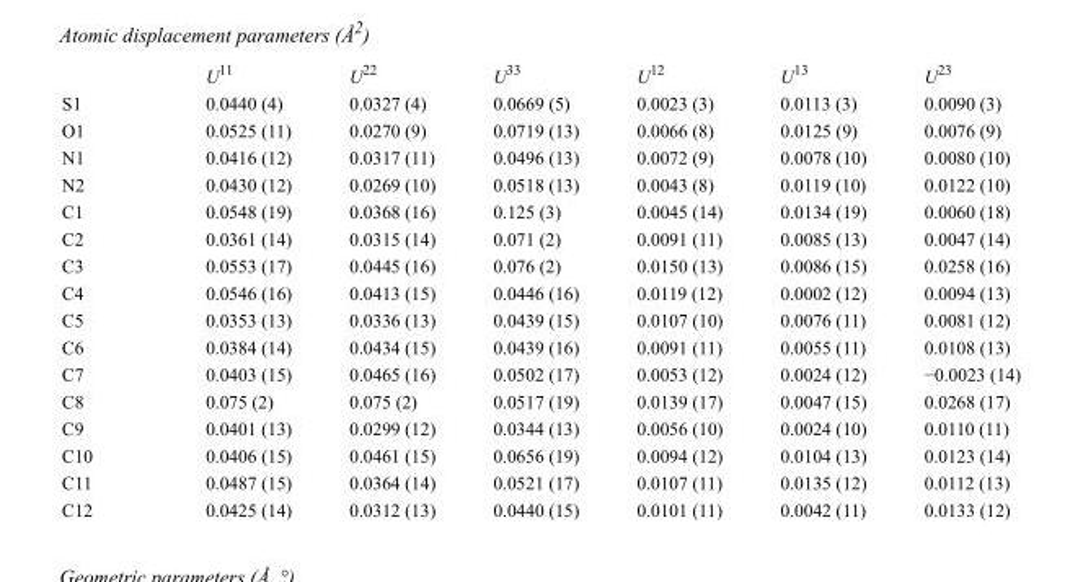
<table><thead><tr><td></td><td>U<sup>11</sup></td><td>U<sup>22</sup></td><td>U<sup>33</sup></td><td>U<sup>12</sup></td><td>U<sup>13</sup></td><td>U<sup>23</sup></td></tr></thead><tbody><tr><td>S1</td><td>0.0440 (4)</td><td>0.0327 (4)</td><td>0.0669 (5)</td><td>0.0023 (3)</td><td>0.0113 (3)</td><td>0.0090 (3)</td></tr><tr><td>O1</td><td>0.0525 (11)</td><td>0.0270 (9)</td><td>0.0719 (13)</td><td>0.0066 (8)</td><td>0.0125 (9)</td><td>0.0076 (9)</td></tr><tr><td>N1</td><td>0.0416 (12)</td><td>0.0317 (11)</td><td>0.0496 (13)</td><td>0.0072 (9)</td><td>0.0078 (10)</td><td>0.0080 (10)</td></tr><tr><td>N2</td><td>0.0430 (12)</td><td>0.0269 (10)</td><td>0.0518 (13)</td><td>0.0043 (8)</td><td>0.0119 (10)</td><td>0.0122 (10)</td></tr><tr><td>C1</td><td>0.0548 (19)</td><td>0.0368 (16)</td><td>0.125 (3)</td><td>0.0045 (14)</td><td>0.0134 (19)</td><td>0.0060 (18)</td></tr><tr><td>C2</td><td>0.0361 (14)</td><td>0.0315 (14)</td><td>0.071 (2)</td><td>0.0091 (11)</td><td>0.0085 (13)</td><td>0.0047 (14)</td></tr><tr><td>C3</td><td>0.0553 (17)</td><td>0.0445 (16)</td><td>0.076 (2)</td><td>0.0150 (13)</td><td>0.0086 (15)</td><td>0.0258 (16)</td></tr><tr><td>C4</td><td>0.0546 (16)</td><td>0.0413 (15)</td><td>0.0446 (16)</td><td>0.0119 (12)</td><td>0.0002 (12)</td><td>0.0094 (13)</td></tr><tr><td>C5</td><td>0.0353 (13)</td><td>0.0336 (13)</td><td>0.0439 (15)</td><td>0.0107 (10)</td><td>0.0076 (11)</td><td>0.0081 (12)</td></tr><tr><td>C6</td><td>0.0384 (14)</td><td>0.0434 (15)</td><td>0.0439 (16)</td><td>0.0091 (11)</td><td>0.0055 (11)</td><td>0.0108 (13)</td></tr><tr><td>C7</td><td>0.0403 (15)</td><td>0.0465 (16)</td><td>0.0502 (17)</td><td>0.0053 (12)</td><td>0.0024 (12)</td><td>−0.0023 (14)</td></tr><tr><td>C8</td><td>0.075 (2)</td><td>0.075 (2)</td><td>0.0517 (19)</td><td>0.0139 (17)</td><td>0.0047 (15)</td><td>0.0268 (17)</td></tr><tr><td>C9</td><td>0.0401 (13)</td><td>0.0299 (12)</td><td>0.0344 (13)</td><td>0.0056 (10)</td><td>0.0024 (10)</td><td>0.0110 (11)</td></tr><tr><td>C10</td><td>0.0406 (15)</td><td>0.0461 (15)</td><td>0.0656 (19)</td><td>0.0094 (12)</td><td>0.0104 (13)</td><td>0.0123 (14)</td></tr><tr><td>C11</td><td>0.0487 (15)</td><td>0.0364 (14)</td><td>0.0521 (17)</td><td>0.0107 (11)</td><td>0.0135 (12)</td><td>0.0112 (13)</td></tr><tr><td>C12</td><td>0.0425 (14)</td><td>0.0312 (13)</td><td>0.0440 (15)</td><td>0.0101 (11)</td><td>0.0042 (11)</td><td>0.0133 (12)</td></tr></tbody></table>